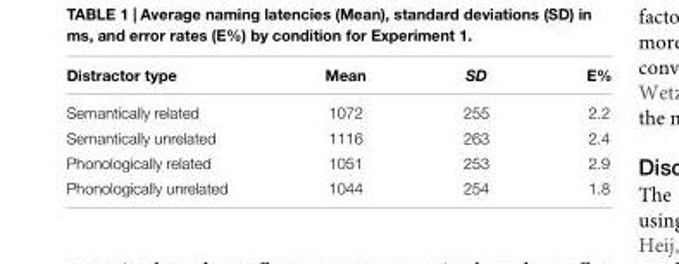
<table><thead><tr><td>Distractor type</td><td>Mean</td><td>SD</td><td>E%</td></tr></thead><tbody><tr><td>Semantically related</td><td>1072</td><td>255</td><td>2.2</td></tr><tr><td>Semantically unrelated</td><td>1116</td><td>263</td><td>2.4</td></tr><tr><td>Phonologically related</td><td>1051</td><td>253</td><td>2.9</td></tr><tr><td>Phonologically unrelated</td><td>1044</td><td>254</td><td>1.8</td></tr></tbody></table>